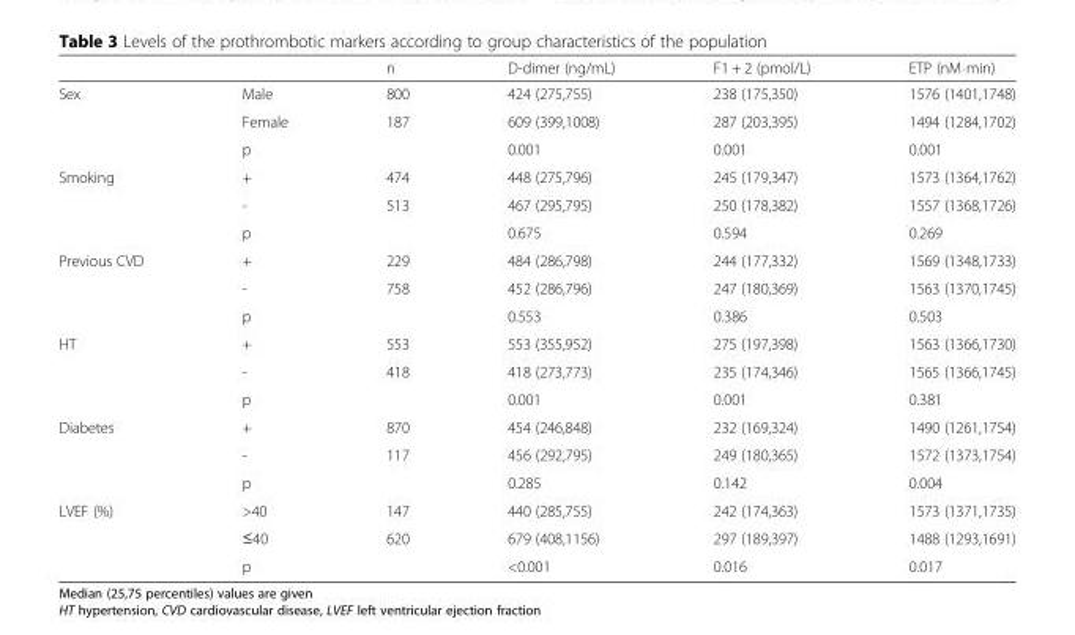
<table><thead><tr><td></td><td></td><td>n</td><td>D-dimer (ng/mL)</td><td>F1 + 2 (pmol/L)</td><td>ETP (nM⋅min)</td></tr></thead><tbody><tr><td rowspan="3">Sex</td><td>Male</td><td>800</td><td>424 (275,755)</td><td>238 (175,350)</td><td>1576 (1401,1748)</td></tr><tr><td>Female</td><td>187</td><td>609 (399,1008)</td><td>287 (203,395)</td><td>1494 (1284,1702)</td></tr><tr><td>p</td><td></td><td>0.001</td><td>0.001</td><td>0.001</td></tr><tr><td rowspan="3">Smoking</td><td>+</td><td>474</td><td>448 (275,796)</td><td>245 (179,347)</td><td>1573 (1364,1762)</td></tr><tr><td>-</td><td>513</td><td>467 (295,795)</td><td>250 (178,382)</td><td>1557 (1368,1726)</td></tr><tr><td>p</td><td></td><td>0.675</td><td>0.594</td><td>0.269</td></tr><tr><td rowspan="3">Previous CVD</td><td>+</td><td>229</td><td>484 (286,798)</td><td>244 (177,332)</td><td>1569 (1348,1733)</td></tr><tr><td>-</td><td>758</td><td>452 (286,796)</td><td>247 (180,369)</td><td>1563 (1370,1745)</td></tr><tr><td>p</td><td></td><td>0.553</td><td>0.386</td><td>0.503</td></tr><tr><td rowspan="3">HT</td><td>+</td><td>553</td><td>553 (355,952)</td><td>275 (197,398)</td><td>1563 (1366,1730)</td></tr><tr><td>-</td><td>418</td><td>418 (273,773)</td><td>235 (174,346)</td><td>1565 (1366,1745)</td></tr><tr><td>p</td><td></td><td>0.001</td><td>0.001</td><td>0.381</td></tr><tr><td rowspan="3">Diabetes</td><td>+</td><td>870</td><td>454 (246,848)</td><td>232 (169,324)</td><td>1490 (1261,1754)</td></tr><tr><td>-</td><td>117</td><td>456 (292,795)</td><td>249 (180,365)</td><td>1572 (1373,1754)</td></tr><tr><td>p</td><td></td><td>0.285</td><td>0.142</td><td>0.004</td></tr><tr><td rowspan="3">LVEF (%)</td><td>&gt;40</td><td>147</td><td>440 (285,755)</td><td>242 (174,363)</td><td>1573 (1371,1735)</td></tr><tr><td>≤40</td><td>620</td><td>679 (408,1156)</td><td>297 (189,397)</td><td>1488 (1293,1691)</td></tr><tr><td>p</td><td></td><td>&lt;0.001</td><td>0.016</td><td>0.017</td></tr></tbody></table>